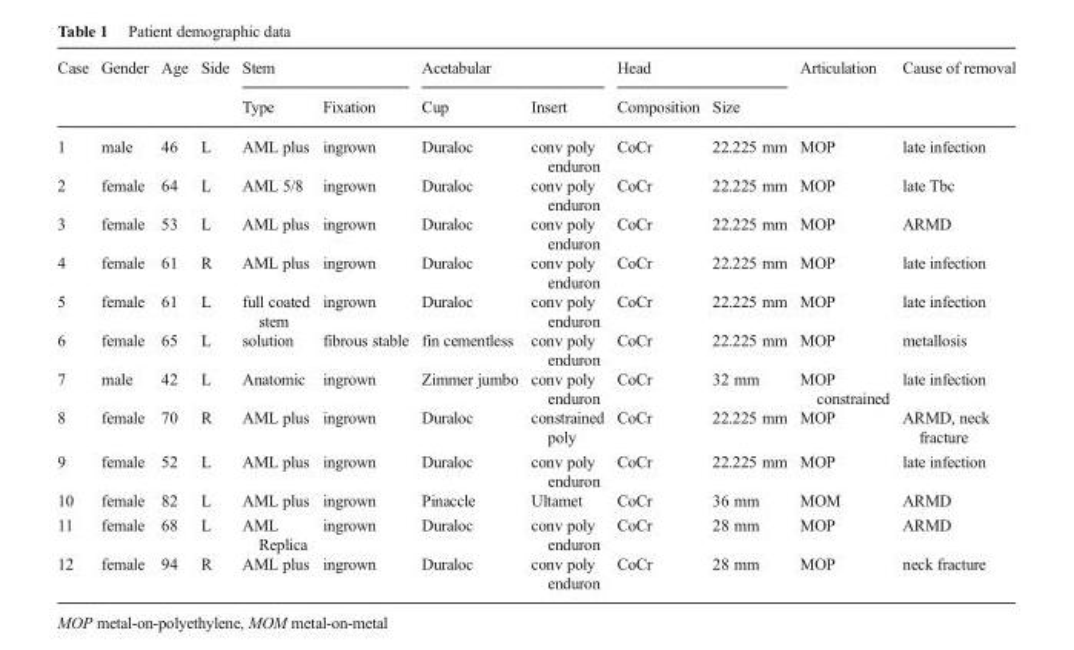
<table><thead><tr><td rowspan="2">Case</td><td rowspan="2">Gender</td><td rowspan="2">Age</td><td rowspan="2">Side</td><td colspan="2">Stem</td><td colspan="2">Acetabular</td><td colspan="2">Head</td><td rowspan="2">Articulation</td><td rowspan="2">Cause of removal</td></tr><tr><td>Type</td><td>Fixation</td><td>Cup</td><td>Insert</td><td>Composition</td><td>Size</td></tr></thead><tbody><tr><td>1</td><td>male</td><td>46</td><td>L</td><td>AML plus</td><td>ingrown</td><td>Duraloc</td><td>conv poly enduron</td><td>CoCr</td><td>22.225 mm</td><td>MOP</td><td>late infection</td></tr><tr><td>2</td><td>female</td><td>64</td><td>L</td><td>AML 5/8</td><td>ingrown</td><td>Duraloc</td><td>conv poly enduron</td><td>CoCr</td><td>22.225 mm</td><td>MOP</td><td>late Tbc</td></tr><tr><td>3</td><td>female</td><td>53</td><td>L</td><td>AML plus</td><td>ingrown</td><td>Duraloc</td><td>conv poly enduron</td><td>CoCr</td><td>22.225 mm</td><td>MOP</td><td>ARMD</td></tr><tr><td>4</td><td>female</td><td>61</td><td>R</td><td>AML plus</td><td>ingrown</td><td>Duraloc</td><td>conv poly enduron</td><td>CoCr</td><td>22.225 mm</td><td>MOP</td><td>late infection</td></tr><tr><td>5</td><td>female</td><td>61</td><td>L</td><td>full coated stem</td><td>ingrown</td><td>Duraloc</td><td>conv poly enduron</td><td>CoCr</td><td>22.225 mm</td><td>MOP</td><td>late infection</td></tr><tr><td>6</td><td>female</td><td>65</td><td>L</td><td>solution</td><td>fibrous stable</td><td>fin cementless</td><td>conv poly enduron</td><td>CoCr</td><td>22.225 mm</td><td>MOP</td><td>metallosis</td></tr><tr><td>7</td><td>male</td><td>42</td><td>L</td><td>Anatomic</td><td>ingrown</td><td>Zimmer jumbo</td><td>conv poly enduron</td><td>CoCr</td><td>32 mm</td><td>MOP constrained</td><td>late infection</td></tr><tr><td>8</td><td>female</td><td>70</td><td>R</td><td>AML plus</td><td>ingrown</td><td>Duraloc</td><td>constrained poly</td><td>CoCr</td><td>22.225 mm</td><td>MOP</td><td>ARMD, neck fracture</td></tr><tr><td>9</td><td>female</td><td>52</td><td>L</td><td>AML plus</td><td>ingrown</td><td>Duraloc</td><td>conv poly enduron</td><td>CoCr</td><td>22.225 mm</td><td>MOP</td><td>late infection</td></tr><tr><td>10</td><td>female</td><td>82</td><td>L</td><td>AML plus</td><td>ingrown</td><td>Pinaccle</td><td>Ultamet</td><td>CoCr</td><td>36 mm</td><td>MOM</td><td>ARMD</td></tr><tr><td>11</td><td>female</td><td>68</td><td>L</td><td>AML Replica</td><td>ingrown</td><td>Duraloc</td><td>conv poly enduron</td><td>CoCr</td><td>28 mm</td><td>MOP</td><td>ARMD</td></tr><tr><td>12</td><td>female</td><td>94</td><td>R</td><td>AML plus</td><td>ingrown</td><td>Duraloc</td><td>conv poly enduron</td><td>CoCr</td><td>28 mm</td><td>MOP</td><td>neck fracture</td></tr></tbody></table>